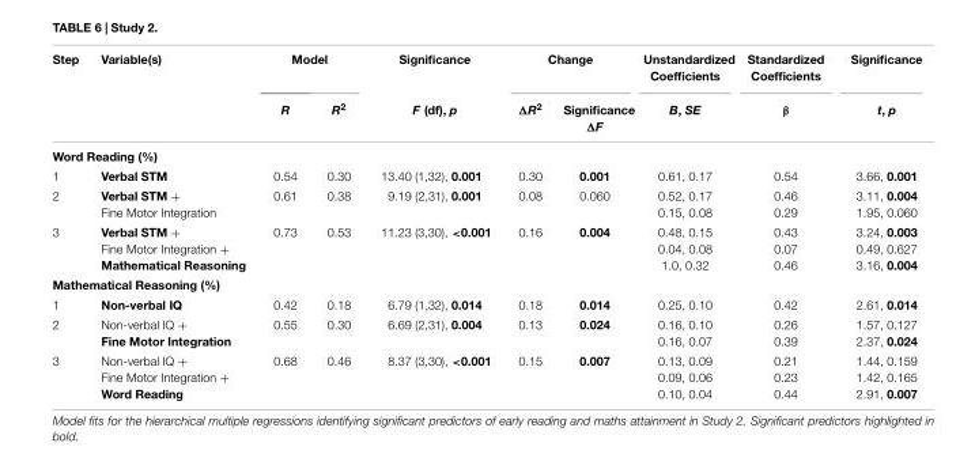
<table><thead><tr><td rowspan="2">Step</td><td rowspan="2">Variable(s)</td><td colspan="2">Model</td><td rowspan="2">Significance F (df), p</td><td colspan="2">Change</td><td rowspan="2">Unstandardized Coefficients B, SE</td><td rowspan="2">Standardized Coefficients β</td><td rowspan="2">Significance t, p</td></tr><tr><td>R</td><td>R<sup>2</sup></td><td>ΔR<sup>2</sup></td><td>Significance ΔF</td></tr></thead><tbody><tr><td colspan="10">Word Reading (%)</td></tr><tr><td>1</td><td>Verbal STM</td><td>0.54</td><td>0.30</td><td>13.40 (1,32), 0.001</td><td>0.30</td><td>0.001</td><td>0.61, 0.17</td><td>0.54</td><td>3.66, 0.001</td></tr><tr><td>2</td><td>Verbal STM + Fine Motor Integration</td><td>0.61</td><td>0.38</td><td>9.19 (2,31), 0.001</td><td>0.08</td><td>0.060</td><td>0.52, 0.17 0.15, 0.08</td><td>0.46 0.29</td><td>3.11, 0.004 1.95, 0.060</td></tr><tr><td>3</td><td>Verbal STM + Fine Motor Integration + Mathematical Reasoning</td><td>0.73</td><td>0.53</td><td>11.23 (3,30), &lt;0.001</td><td>0.16</td><td>0.004</td><td>0.48, 0.15 0.04, 0.08 1.0, 0.32</td><td>0.43 0.07 0.46</td><td>3.24, 0.003 0.49, 0.627 3.16, 0.004</td></tr><tr><td colspan="10">Mathematical Reasoning (%)</td></tr><tr><td>1</td><td>Non-verbal IQ</td><td>0.42</td><td>0.18</td><td>6.79 (1,32), 0.014</td><td>0.18</td><td>0.014</td><td>0.25, 0.10</td><td>0.42</td><td>2.61, 0.014</td></tr><tr><td>2</td><td>Non-verbal IQ + Fine Motor Integration</td><td>0.55</td><td>0.30</td><td>6.69 (2,31), 0.004</td><td>0.13</td><td>0.024</td><td>0.16, 0.10 0.16, 0.07</td><td>0.26 0.39</td><td>1.57, 0.127 2.37, 0.024</td></tr><tr><td>3</td><td>Non-verbal IQ + Fine Motor Integration + Word Reading</td><td>0.68</td><td>0.46</td><td>8.37 (3,30), &lt;0.001</td><td>0.15</td><td>0.007</td><td>0.13, 0.09 0.09, 0.06 0.10, 0.04</td><td>0.21 0.23 0.44</td><td>1.44, 0.159 1.42, 0.165 2.91, 0.007</td></tr></tbody></table>